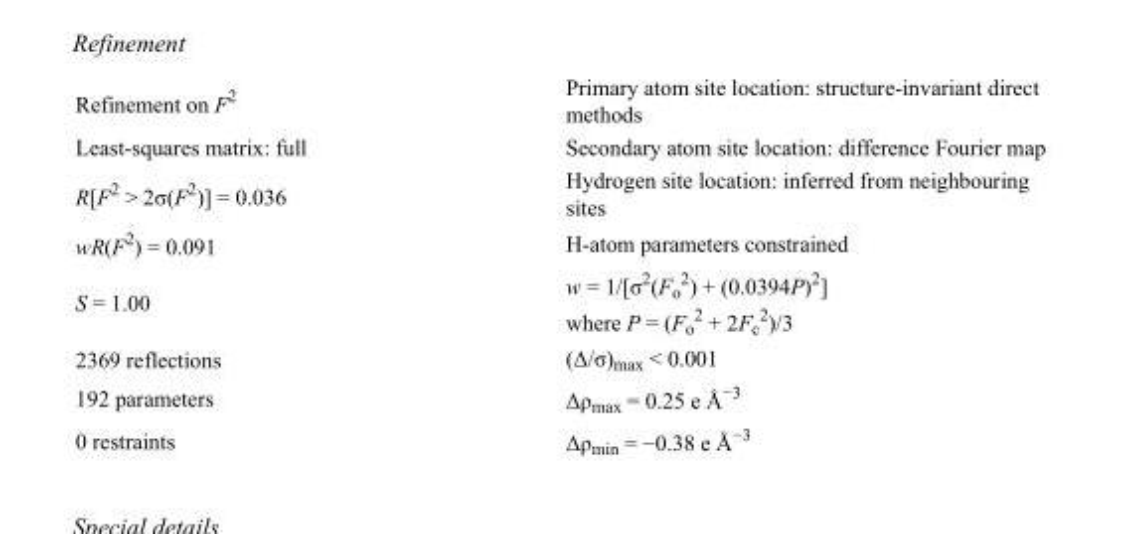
<table><tbody><tr><td>Refinement on F<sup>2</sup></td><td>Primary atom site location: structure-invariant direct methods</td></tr><tr><td>Least-squares matrix: full</td><td>Secondary atom site location: difference Fourier map</td></tr><tr><td>R[F<sup>2</sup> &gt; 2σ(F<sup>2</sup>)] = 0.036</td><td>Hydrogen site location: inferred from neighbouring sites</td></tr><tr><td>wR(F<sup>2</sup>) = 0.091</td><td>H-atom parameters constrained</td></tr><tr><td>S = 1.00</td><td>w = 1/[σ<sup>2</sup>(F<sub>o</sub> <sup>2</sup>) + (0.0394P)<sup>2</sup>] where P = (F<sub>o</sub> <sup>2</sup> + 2F<sub>c</sub> <sup>2</sup>)/3</td></tr><tr><td>2369 reflections</td><td>(Δ/σ)<sub>max</sub> &lt; 0.001</td></tr><tr><td>192 parameters</td><td>Δρ<sub>max</sub> = 0.25 e Å<sup>−3</sup></td></tr><tr><td>0 restraints</td><td>Δρ<sub>min</sub> = −0.38 e Å<sup>−3</sup></td></tr></tbody></table>